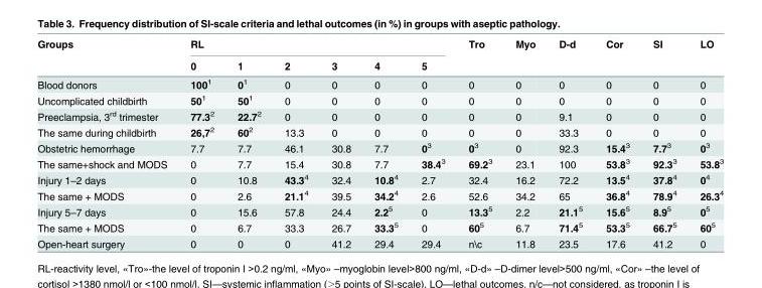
<table><thead><tr><td rowspan="2">Groups</td><td colspan="6">RL</td><td rowspan="2">Tro</td><td rowspan="2">Myo</td><td rowspan="2">D-d</td><td rowspan="2">Cor</td><td rowspan="2">SI</td><td rowspan="2">LO</td></tr><tr><td>0</td><td>1</td><td>2</td><td>3</td><td>4</td><td>5</td></tr></thead><tbody><tr><td>Blood donors</td><td>100<sup>1</sup></td><td>0<sup>1</sup></td><td>0</td><td>0</td><td>0</td><td>0</td><td>0</td><td>0</td><td>0</td><td>0</td><td>0</td><td>0</td></tr><tr><td>Uncomplicated childbirth</td><td>50<sup>1</sup></td><td>50<sup>1</sup></td><td>0</td><td>0</td><td>0</td><td>0</td><td>0</td><td>0</td><td>0</td><td>0</td><td>0</td><td>0</td></tr><tr><td>Preeclampsia, 3<sup>rd</sup> trimester</td><td>77.3<sup>2</sup></td><td>22.7<sup>2</sup></td><td>0</td><td>0</td><td>0</td><td>0</td><td>0</td><td>0</td><td>9.1</td><td>0</td><td>0</td><td>0</td></tr><tr><td>The same during childbirth</td><td>26,7<sup>2</sup></td><td>60<sup>2</sup></td><td>13.3</td><td>0</td><td>0</td><td>0</td><td>0</td><td>0</td><td>33.3</td><td>0</td><td>0</td><td>0</td></tr><tr><td>Obstetric hemorrhage</td><td>7.7</td><td>7.7</td><td>46.1</td><td>30.8</td><td>7.7</td><td>0<sup>3</sup></td><td>0<sup>3</sup></td><td>0</td><td>92.3</td><td>15.4<sup>3</sup></td><td>7.7<sup>3</sup></td><td>0<sup>3</sup></td></tr><tr><td>The same+shock and MODS</td><td>0</td><td>7.7</td><td>15.4</td><td>30.8</td><td>7.7</td><td>38.4<sup>3</sup></td><td>69.2<sup>3</sup></td><td>23.1</td><td>100</td><td>53.8<sup>3</sup></td><td>92.3<sup>3</sup></td><td>53.8<sup>3</sup></td></tr><tr><td>Injury 1–2 days</td><td>0</td><td>10.8</td><td>43.3<sup>4</sup></td><td>32.4</td><td>10.8<sup>4</sup></td><td>2.7</td><td>32.4</td><td>16.2</td><td>72.2</td><td>13.5<sup>4</sup></td><td>37.8<sup>4</sup></td><td>0<sup>4</sup></td></tr><tr><td>The same + MODS</td><td>0</td><td>2.6</td><td>21.1<sup>4</sup></td><td>39.5</td><td>34.2<sup>4</sup></td><td>2.6</td><td>52.6</td><td>34.2</td><td>65</td><td>36.8<sup>4</sup></td><td>78.9<sup>4</sup></td><td>26.3<sup>4</sup></td></tr><tr><td>Injury 5–7 days</td><td>0</td><td>15.6</td><td>57.8</td><td>24.4</td><td>2.2<sup>5</sup></td><td>0</td><td>13.3<sup>5</sup></td><td>2.2</td><td>21.1<sup>5</sup></td><td>15.6<sup>5</sup></td><td>8.9<sup>5</sup></td><td>0<sup>5</sup></td></tr><tr><td>The same + MODS</td><td>0</td><td>6.7</td><td>33.3</td><td>26.7</td><td>33.3<sup>5</sup></td><td>0</td><td>60<sup>5</sup></td><td>6.7</td><td>71.4<sup>5</sup></td><td>53.3<sup>5</sup></td><td>66.7<sup>5</sup></td><td>60<sup>5</sup></td></tr><tr><td>Open-heart surgery</td><td>0</td><td>0</td><td>0</td><td>41.2</td><td>29.4</td><td>29.4</td><td>n\c</td><td>11.8</td><td>23.5</td><td>17.6</td><td>41.2</td><td>0</td></tr></tbody></table>